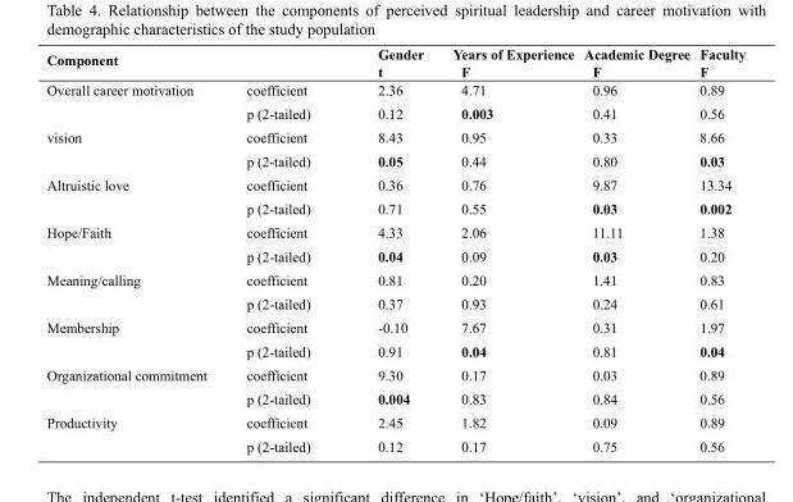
<table><thead><tr><td rowspan="2">Component</td><td rowspan="2"></td><td rowspan="2">Gender t</td><td rowspan="2">Years of Experience F</td><td rowspan="2">Academic Degree F</td><td rowspan="2">Faculty F</td></tr><tr></tr></thead><tbody><tr><td rowspan="2">Overall career motivation</td><td>coefficient</td><td>2.36</td><td>4.71</td><td>0.96</td><td>0.89</td></tr><tr><td>p (2-tailed)</td><td>0.12</td><td>0.003</td><td>0.41</td><td>0.56</td></tr><tr><td rowspan="2">vision</td><td>coefficient</td><td>8.43</td><td>0.95</td><td>0.33</td><td>8.66</td></tr><tr><td>p (2-tailed)</td><td>0.05</td><td>0.44</td><td>0.80</td><td>0.03</td></tr><tr><td rowspan="2">Altruistic love</td><td>coefficient</td><td>0.36</td><td>0.76</td><td>9.87</td><td>13.34</td></tr><tr><td>p (2-tailed)</td><td>0.71</td><td>0.55</td><td>0.03</td><td>0.002</td></tr><tr><td rowspan="2">Hope/Faith</td><td>coefficient</td><td>4.33</td><td>2.06</td><td>11.11</td><td>1.38</td></tr><tr><td>p (2-tailed)</td><td>0.04</td><td>0.09</td><td>0.03</td><td>0.20</td></tr><tr><td rowspan="2">Meaning/calling</td><td>coefficient</td><td>0.81</td><td>0.20</td><td>1.41</td><td>0.83</td></tr><tr><td>p (2-tailed)</td><td>0.37</td><td>0.93</td><td>0.24</td><td>0.61</td></tr><tr><td rowspan="2">Membership</td><td>coefficient</td><td>-0.10</td><td>7.67</td><td>0.31</td><td>1.97</td></tr><tr><td>p (2-tailed)</td><td>0.91</td><td>0.04</td><td>0.81</td><td>0.04</td></tr><tr><td rowspan="2">Organizational commitment</td><td>coefficient</td><td>9.30</td><td>0.17</td><td>0.03</td><td>0.89</td></tr><tr><td>p (2-tailed)</td><td>0.004</td><td>0.83</td><td>0.84</td><td>0.56</td></tr><tr><td rowspan="2">Productivity</td><td>coefficient</td><td>2.45</td><td>1.82</td><td>0.09</td><td>0.89</td></tr><tr><td>p (2-tailed)</td><td>0.12</td><td>0.17</td><td>0.75</td><td>0.56</td></tr></tbody></table>